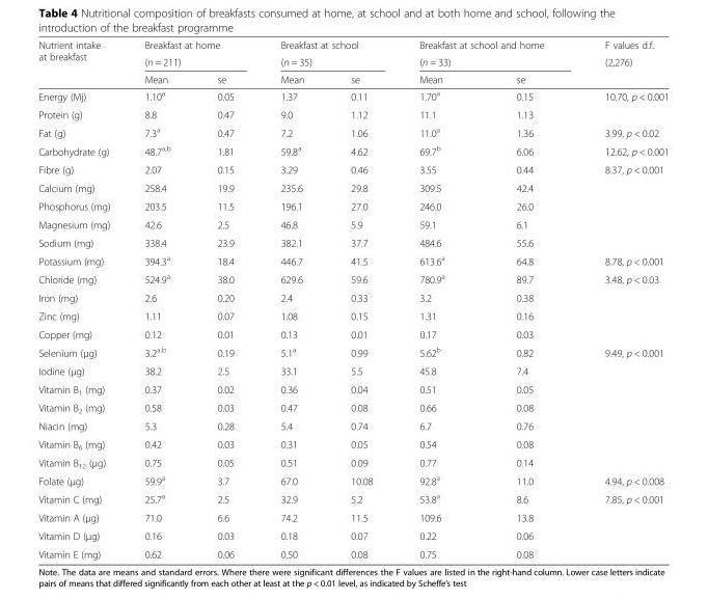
<table><thead><tr><td rowspan="3">Nutrient intake at breakfast</td><td rowspan="2" colspan="2">Breakfast at home (n = 211)</td><td rowspan="2" colspan="2">Breakfast at school (n = 35)</td><td rowspan="2" colspan="2">Breakfast at school and home (n = 33)</td><td rowspan="3">F values d.f. (2,276)</td></tr><tr></tr><tr><td>Mean</td><td>se</td><td>Mean</td><td>se</td><td>Mean</td><td>se</td></tr></thead><tbody><tr><td>Energy (Mj)</td><td>1.10<sup>a</sup></td><td>0.05</td><td>1.37</td><td>0.11</td><td>1.70<sup>a</sup></td><td>0.15</td><td>10.70, p &lt; 0.001</td></tr><tr><td>Protein (g)</td><td>8.8</td><td>0.47</td><td>9.0</td><td>1.12</td><td>11.1</td><td>1.13</td><td></td></tr><tr><td>Fat (g)</td><td>7.3<sup>a</sup></td><td>0.47</td><td>7.2</td><td>1.06</td><td>11.0<sup>a</sup></td><td>1.36</td><td>3.99, p &lt; 0.02</td></tr><tr><td>Carbohydrate (g)</td><td>48.7<sup>a,b</sup></td><td>1.81</td><td>59.8<sup>a</sup></td><td>4.62</td><td>69.7<sup>b</sup></td><td>6.06</td><td>12.62, p &lt; 0.001</td></tr><tr><td>Fibre (g)</td><td>2.07</td><td>0.15</td><td>3.29</td><td>0.46</td><td>3.55</td><td>0.44</td><td>8.37, p &lt; 0.001</td></tr><tr><td>Calcium (mg)</td><td>258.4</td><td>19.9</td><td>235.6</td><td>29.8</td><td>309.5</td><td>42.4</td><td></td></tr><tr><td>Phosphorus (mg)</td><td>203.5</td><td>11.5</td><td>196.1</td><td>27.0</td><td>246.0</td><td>26.0</td><td></td></tr><tr><td>Magnesium (mg)</td><td>42.6</td><td>2.5</td><td>46.8</td><td>5.9</td><td>59.1</td><td>6.1</td><td></td></tr><tr><td>Sodium (mg)</td><td>338.4</td><td>23.9</td><td>382.1</td><td>37.7</td><td>484.6</td><td>55.6</td><td></td></tr><tr><td>Potassium (mg)</td><td>394.3<sup>a</sup></td><td>18.4</td><td>446.7</td><td>41.5</td><td>613.6<sup>a</sup></td><td>64.8</td><td>8.78, p &lt; 0.001</td></tr><tr><td>Chloride (mg)</td><td>524.9<sup>a</sup></td><td>38.0</td><td>629.6</td><td>59.6</td><td>780.9<sup>a</sup></td><td>89.7</td><td>3.48, p &lt; 0.03</td></tr><tr><td>Iron (mg)</td><td>2.6</td><td>0.20</td><td>2.4</td><td>0.33</td><td>3.2</td><td>0.38</td><td></td></tr><tr><td>Zinc (mg)</td><td>1.11</td><td>0.07</td><td>1.08</td><td>0.15</td><td>1.31</td><td>0.16</td><td></td></tr><tr><td>Copper (mg)</td><td>0.12</td><td>0.01</td><td>0.13</td><td>0.01</td><td>0.17</td><td>0.03</td><td></td></tr><tr><td>Selenium (μg)</td><td>3.2<sup>a,b</sup></td><td>0.19</td><td>5.1<sup>a</sup></td><td>0.99</td><td>5.62<sup>b</sup></td><td>0.82</td><td>9.49, p &lt; 0.001</td></tr><tr><td>Iodine (μg)</td><td>38.2</td><td>2.5</td><td>33.1</td><td>5.5</td><td>45.8</td><td>7.4</td><td></td></tr><tr><td>Vitamin B<sub>1</sub> (mg)</td><td>0.37</td><td>0.02</td><td>0.36</td><td>0.04</td><td>0.51</td><td>0.05</td><td></td></tr><tr><td>Vitamin B<sub>2</sub> (mg)</td><td>0.58</td><td>0.03</td><td>0.47</td><td>0.08</td><td>0.66</td><td>0.08</td><td></td></tr><tr><td>Niacin (mg)</td><td>5.3</td><td>0.28</td><td>5.4</td><td>0.74</td><td>6.7</td><td>0.76</td><td></td></tr><tr><td>Vitamin B<sub>6</sub> (mg)</td><td>0.42</td><td>0.03</td><td>0.31</td><td>0.05</td><td>0.54</td><td>0.08</td><td></td></tr><tr><td>Vitamin B<sub>12</sub> (μg)</td><td>0.75</td><td>0.05</td><td>0.51</td><td>0.09</td><td>0.77</td><td>0.14</td><td></td></tr><tr><td>Folate (μg)</td><td>59.9<sup>a</sup></td><td>3.7</td><td>67.0</td><td>10.08</td><td>92.8<sup>a</sup></td><td>11.0</td><td>4.94, p &lt; 0.008</td></tr><tr><td>Vitamin C (mg)</td><td>25.7<sup>a</sup></td><td>2.5</td><td>32.9</td><td>5.2</td><td>53.8<sup>a</sup></td><td>8.6</td><td>7.85, p &lt; 0.001</td></tr><tr><td>Vitamin A (μg)</td><td>71.0</td><td>6.6</td><td>74.2</td><td>11.5</td><td>109.6</td><td>13.8</td><td></td></tr><tr><td>Vitamin D (μg)</td><td>0.16</td><td>0.03</td><td>0.18</td><td>0.07</td><td>0.22</td><td>0.06</td><td></td></tr><tr><td>Vitamin E (mg)</td><td>0.62</td><td>0.06</td><td>0.50</td><td>0.08</td><td>0.75</td><td>0.08</td><td></td></tr></tbody></table>